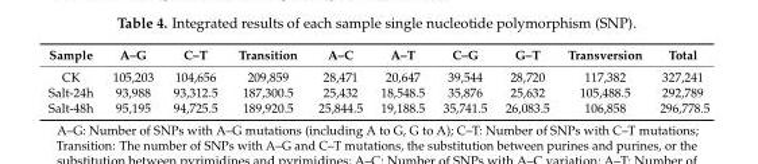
<table><thead><tr><td>Sample</td><td>A–G</td><td>C–T</td><td>Transition</td><td>A–C</td><td>A–T</td><td>C–G</td><td>G–T</td><td>Transversion</td><td>Total</td></tr></thead><tbody><tr><td>CK</td><td>105,203</td><td>104,656</td><td>209,859</td><td>28,471</td><td>20,647</td><td>39,544</td><td>28,720</td><td>117,382</td><td>327,241</td></tr><tr><td>Salt-24h</td><td>93,988</td><td>93,312.5</td><td>187,300.5</td><td>25,432</td><td>18,548.5</td><td>35,876</td><td>25,632</td><td>105,488.5</td><td>292,789</td></tr><tr><td>Salt-48h</td><td>95,195</td><td>94,725.5</td><td>189,920.5</td><td>25,844.5</td><td>19,188.5</td><td>35,741.5</td><td>26,083.5</td><td>106,858</td><td>296,778.5</td></tr></tbody></table>